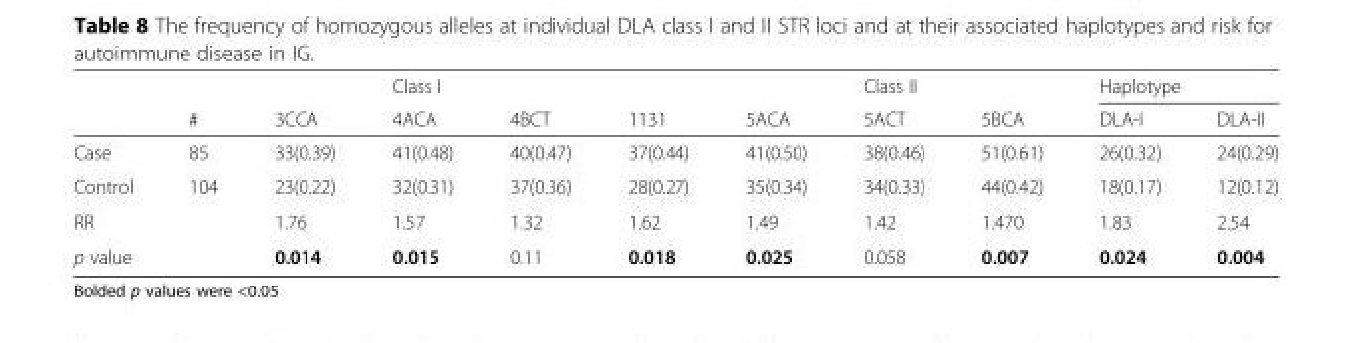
<table><thead><tr><td rowspan="2"></td><td rowspan="2">#</td><td rowspan="2">3CCA</td><td rowspan="2">Class I 4ACA</td><td rowspan="2">4BCT</td><td rowspan="2">1131</td><td rowspan="2">5ACA</td><td rowspan="2">Class II 5ACT</td><td rowspan="2">5BCA</td><td colspan="2">Haplotype</td></tr><tr><td>DLA-I</td><td>DLA-II</td></tr></thead><tbody><tr><td>Case</td><td>85</td><td>33(0.39)</td><td>41(0.48)</td><td>40(0.47)</td><td>37(0.44)</td><td>41(0.50)</td><td>38(0.46)</td><td>51(0.61)</td><td>26(0.32)</td><td>24(0.29)</td></tr><tr><td>Control</td><td>104</td><td>23(0.22)</td><td>32(0.31)</td><td>37(0.36)</td><td>28(0.27)</td><td>35(0.34)</td><td>34(0.33)</td><td>44(0.42)</td><td>18(0.17)</td><td>12(0.12)</td></tr><tr><td>RR</td><td></td><td>1.76</td><td>1.57</td><td>1.32</td><td>1.62</td><td>1.49</td><td>1.42</td><td>1.470</td><td>1.83</td><td>2.54</td></tr><tr><td>p value</td><td></td><td>0.014</td><td>0.015</td><td>0.11</td><td>0.018</td><td>0.025</td><td>0.058</td><td>0.007</td><td>0.024</td><td>0.004</td></tr></tbody></table>